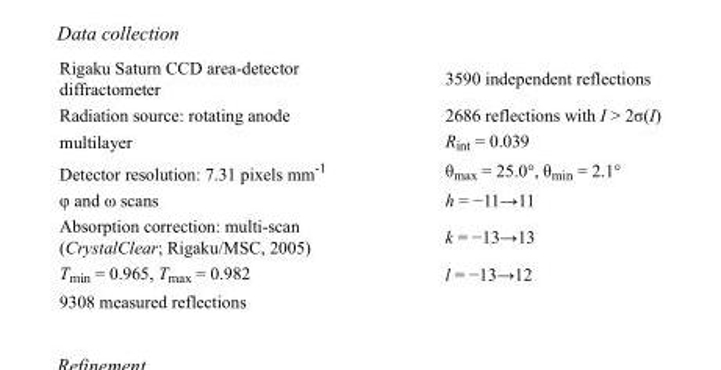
<table><tbody><tr><td>Rigaku Saturn CCD area-detector diffractometer</td><td>3590 independent reflections</td></tr><tr><td>Radiation source: rotating anode</td><td>2686 reflections with I &gt; 2σ(I)</td></tr><tr><td>multilayer</td><td>R<sub>int</sub> = 0.039</td></tr><tr><td>Detector resolution: 7.31 pixels mm<sup>-1</sup></td><td>θ<sub>max</sub> = 25.0°, θ<sub>min</sub> = 2.1°</td></tr><tr><td>φ and ω scans</td><td>h = −11→11</td></tr><tr><td>Absorption correction: multi-scan (CrystalClear; Rigaku/MSC, 2005)</td><td>k = −13→13</td></tr><tr><td>T<sub>min</sub> = 0.965, T<sub>max</sub> = 0.982</td><td>l = −13→12</td></tr><tr><td>9308 measured reflections</td><td></td></tr></tbody></table>